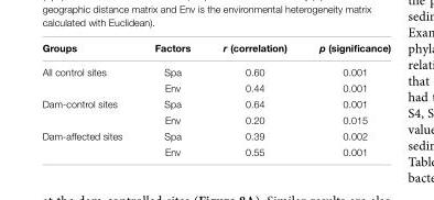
<table><thead><tr><td>Groups</td><td>Factors</td><td>r (correlation)</td><td>p (significance)</td></tr></thead><tbody><tr><td rowspan="2">All control sites</td><td>Spa</td><td>0.60</td><td>0.001</td></tr><tr><td>Env</td><td>0.44</td><td>0.001</td></tr><tr><td rowspan="2">Dam-control sites</td><td>Spa</td><td>0.64</td><td>0.001</td></tr><tr><td>Env</td><td>0.20</td><td>0.015</td></tr><tr><td rowspan="2">Dam-affected sites</td><td>Spa</td><td>0.39</td><td>0.002</td></tr><tr><td>Env</td><td>0.55</td><td>0.001</td></tr></tbody></table>